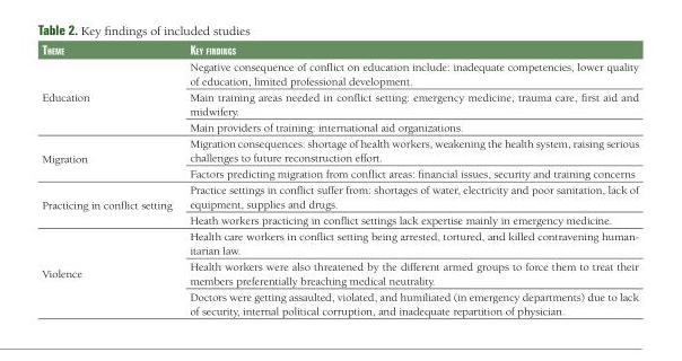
<table><thead><tr><td>theme</td><td>Key findings</td></tr></thead><tbody><tr><td rowspan="3">Education</td><td>Negative consequence of conflict on education include: inadequate competencies, lower quality of education, limited professional development.</td></tr><tr><td>Main training areas needed in conflict setting: emergency medicine, trauma care, first aid and midwifery.</td></tr><tr><td>Main providers of training: international aid organizations.</td></tr><tr><td rowspan="2">Migration</td><td>Migration consequences: shortage of health workers, weakening the health system, raising serious challenges to future reconstruction effort.</td></tr><tr><td>Factors predicting migration from conflict areas: financial issues, security and training concerns</td></tr><tr><td rowspan="2">Practicing in conflict setting</td><td>Practice settings in conflict suffer from: shortages of water, electricity and poor sanitation, lack of equipment, supplies and drugs.</td></tr><tr><td>Heath workers practicing in conflict settings lack expertise mainly in emergency medicine.</td></tr><tr><td rowspan="3">Violence</td><td>Health care workers in conflict setting being arrested, tortured, and killed contravening human- itarian law.</td></tr><tr><td>Health workers were also threatened by the different armed groups to force them to treat their members preferentially breaching medical neutrality.</td></tr><tr><td>Doctors were getting assaulted, violated, and humiliated (in emergency departments) due to lack of security, internal political corruption, and inadequate repartition of physician.</td></tr></tbody></table>